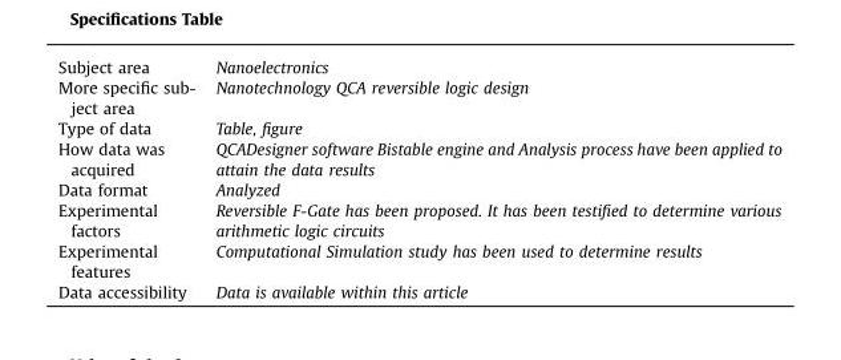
<table><tbody><tr><td>Subject area</td><td>Nanoelectronics</td></tr><tr><td>More specific sub- ject area</td><td>Nanotechnology QCA reversible logic design</td></tr><tr><td>Type of data</td><td>Table, figure</td></tr><tr><td>How data was acquired</td><td>QCADesigner software Bistable engine and Analysis process have been applied to attain the data results</td></tr><tr><td>Data format</td><td>Analyzed</td></tr><tr><td>Experimental factors</td><td>Reversible F-Gate has been proposed. It has been testified to determine various arithmetic logic circuits</td></tr><tr><td>Experimental features</td><td>Computational Simulation study has been used to determine results</td></tr><tr><td>Data accessibility</td><td>Data is available within this article</td></tr></tbody></table>